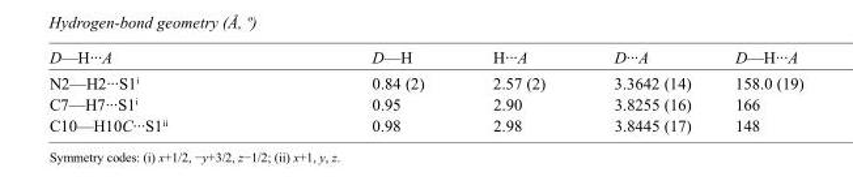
<table><tbody><tr><td>D—H···A</td><td>D—H</td><td>H···A</td><td>D···A</td><td>D—H···A</td></tr><tr><td>N2—H2···S1<sup>i</sup></td><td>0.84 (2)</td><td>2.57 (2)</td><td>3.3642 (14)</td><td>158.0 (19)</td></tr><tr><td>C7—H7···S1<sup>i</sup></td><td>0.95</td><td>2.90</td><td>3.8255 (16)</td><td>166</td></tr><tr><td>C10—H10C···S1<sup>ii</sup></td><td>0.98</td><td>2.98</td><td>3.8445 (17)</td><td>148</td></tr></tbody></table>